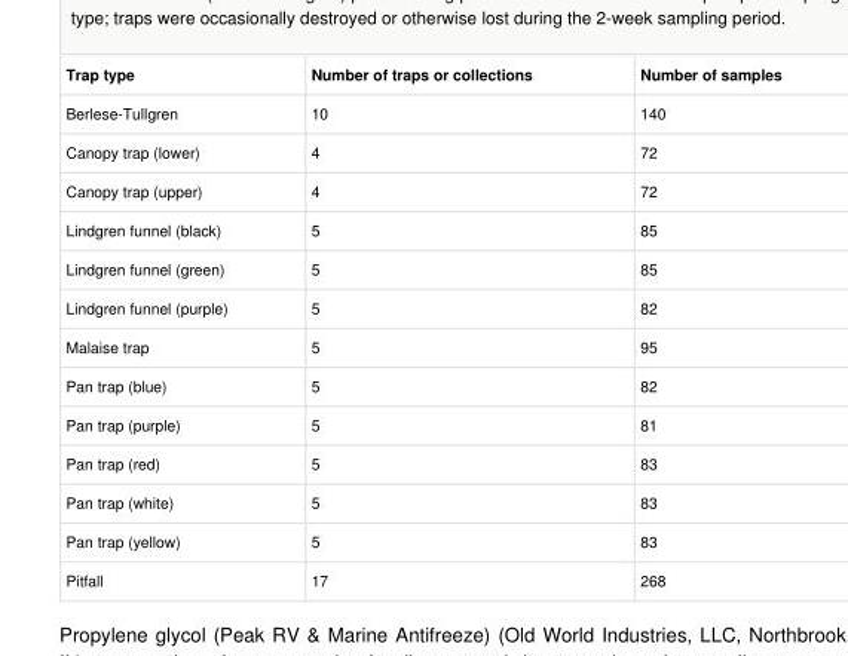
<table><tbody><tr><td>Trap type</td><td>Number of traps or collections</td><td>Number of samples</td></tr><tr><td>Berlese-Tullgren</td><td>10</td><td>140</td></tr><tr><td>Canopy trap (lower)</td><td>4</td><td>72</td></tr><tr><td>Canopy trap (upper)</td><td>4</td><td>72</td></tr><tr><td>Lindgren funnel (black)</td><td>5</td><td>85</td></tr><tr><td>Lindgren funnel (green)</td><td>5</td><td>85</td></tr><tr><td>Lindgren funnel (purple)</td><td>5</td><td>82</td></tr><tr><td>Malaise trap</td><td>5</td><td>95</td></tr><tr><td>Pan trap (blue)</td><td>5</td><td>82</td></tr><tr><td>Pan trap (purple)</td><td>5</td><td>81</td></tr><tr><td>Pan trap (red)</td><td>5</td><td>83</td></tr><tr><td>Pan trap (white)</td><td>5</td><td>83</td></tr><tr><td>Pan trap (yellow)</td><td>5</td><td>83</td></tr><tr><td>Pitfall</td><td>17</td><td>268</td></tr></tbody></table>